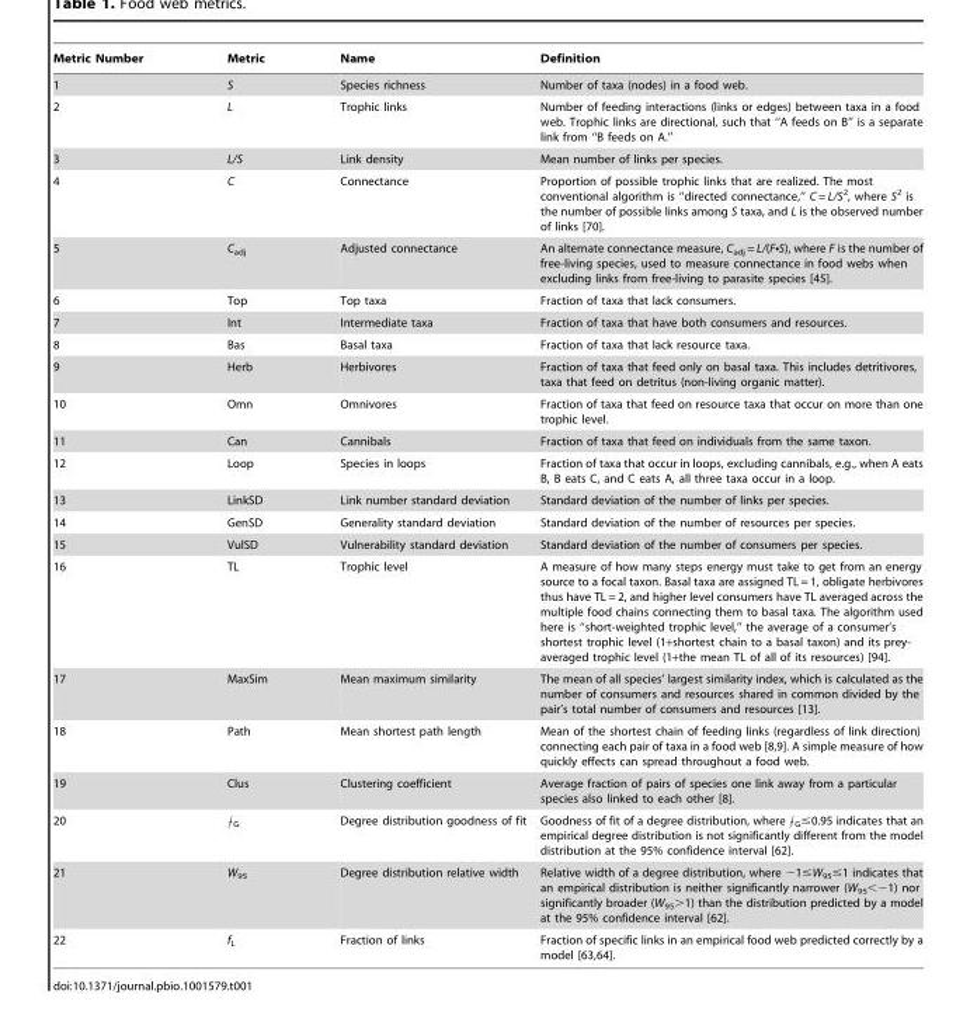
<table><thead><tr><td>Metric Number</td><td>Metric</td><td>Name</td><td>Definition</td></tr></thead><tbody><tr><td>1</td><td>S</td><td>Species richness</td><td>Number of taxa (nodes) in a food web.</td></tr><tr><td>2</td><td>L</td><td>Trophic links</td><td>Number of feeding interactions (links or edges) between taxa in a food web. Trophic links are directional, such that ‘‘A feeds on B’’ is a separate link from ‘‘B feeds on A.’’</td></tr><tr><td>3</td><td>L/S</td><td>Link density</td><td>Mean number of links per species.</td></tr><tr><td>4</td><td>C</td><td>Connectance</td><td>Proportion of possible trophic links that are realized. The most conventional algorithm is ‘‘directed connectance,’’ C = L/S2, where S2 is the number of possible links among S taxa, and L is the observed number of links [70].</td></tr><tr><td>5</td><td>C<sub>adj</sub></td><td>Adjusted connectance</td><td>An alternate connectance measure, C<sub>adj</sub> = L/(F•S), where F is the number of free-living species, used to measure connectance in food webs when excluding links from free-living to parasite species [45].</td></tr><tr><td>6</td><td>Top</td><td>Top taxa</td><td>Fraction of taxa that lack consumers.</td></tr><tr><td>7</td><td>Int</td><td>Intermediate taxa</td><td>Fraction of taxa that have both consumers and resources.</td></tr><tr><td>8</td><td>Bas</td><td>Basal taxa</td><td>Fraction of taxa that lack resource taxa.</td></tr><tr><td>9</td><td>Herb</td><td>Herbivores</td><td>Fraction of taxa that feed only on basal taxa. This includes detritivores, taxa that feed on detritus (non-living organic matter).</td></tr><tr><td>10</td><td>Omn</td><td>Omnivores</td><td>Fraction of taxa that feed on resource taxa that occur on more than one trophic level.</td></tr><tr><td>11</td><td>Can</td><td>Cannibals</td><td>Fraction of taxa that feed on individuals from the same taxon.</td></tr><tr><td>12</td><td>Loop</td><td>Species in loops</td><td>Fraction of taxa that occur in loops, excluding cannibals, e.g., when A eats B, B eats C, and C eats A, all three taxa occur in a loop.</td></tr><tr><td>13</td><td>LinkSD</td><td>Link number standard deviation</td><td>Standard deviation of the number of links per species.</td></tr><tr><td>14</td><td>GenSD</td><td>Generality standard deviation</td><td>Standard deviation of the number of resources per species.</td></tr><tr><td>15</td><td>VulSD</td><td>Vulnerability standard deviation</td><td>Standard deviation of the number of consumers per species.</td></tr><tr><td>16</td><td>TL</td><td>Trophic level</td><td>A measure of how many steps energy must take to get from an energy source to a focal taxon. Basal taxa are assigned TL = 1, obligate herbivores thus have TL = 2, and higher level consumers have TL averaged across the multiple food chains connecting them to basal taxa. The algorithm used here is ‘‘short-weighted trophic level,’’ the average of a consumer’s shortest trophic level (1+shortest chain to a basal taxon) and its prey- averaged trophic level (1+the mean TL of all of its resources) [94].</td></tr><tr><td>17</td><td>MaxSim</td><td>Mean maximum similarity</td><td>The mean of all species’ largest similarity index, which is calculated as the number of consumers and resources shared in common divided by the pair’s total number of consumers and resources [13].</td></tr><tr><td>18</td><td>Path</td><td>Mean shortest path length</td><td>Mean of the shortest chain of feeding links (regardless of link direction) connecting each pair of taxa in a food web [8,9]. A simple measure of how quickly effects can spread throughout a food web.</td></tr><tr><td>19</td><td>Clus</td><td>Clustering coefficient</td><td>Average fraction of pairs of species one link away from a particular species also linked to each other [8].</td></tr><tr><td>20</td><td>eG</td><td>Degree distribution goodness of fit</td><td>Goodness of fit of a degree distribution, where eG#0.95 indicates that an empirical degree distribution is not significantly different from the model distribution at the 95% confidence interval [62].</td></tr><tr><td>21</td><td>W<sub>95</sub></td><td>Degree distribution relative width</td><td>Relative width of a degree distribution, where −1≤W<sub>95</sub>≤1 indicates that an empirical distribution is neither significantly narrower (W<sub>95</sub>&lt;−1) nor significantly broader (W<sub>95</sub>&gt;1) than the distribution predicted by a model at the 95% confidence interval [62].</td></tr><tr><td>22</td><td>f<sub>L</sub></td><td>Fraction of links</td><td>Fraction of specific links in an empirical food web predicted correctly by a model [63,64].</td></tr></tbody></table>